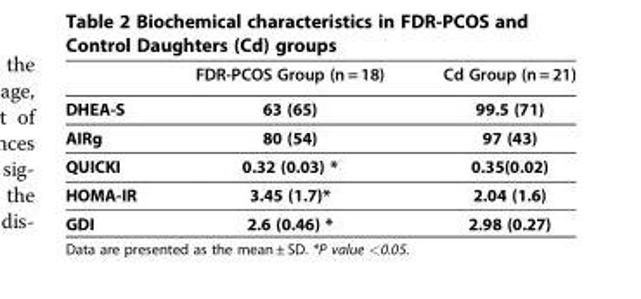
<table><thead><tr><td></td><td>FDR-PCOS Group (n = 18)</td><td>Cd Group (n = 21)</td></tr></thead><tbody><tr><td>DHEA-S</td><td>63 (65)</td><td>99.5 (71)</td></tr><tr><td>AIRg</td><td>80 (54)</td><td>97 (43)</td></tr><tr><td>QUICKI</td><td>0.32 (0.03) *</td><td>0.35(0.02)</td></tr><tr><td>HOMA-IR</td><td>3.45 (1.7)*</td><td>2.04 (1.6)</td></tr><tr><td>GDI</td><td>2.6 (0.46) *</td><td>2.98 (0.27)</td></tr></tbody></table>